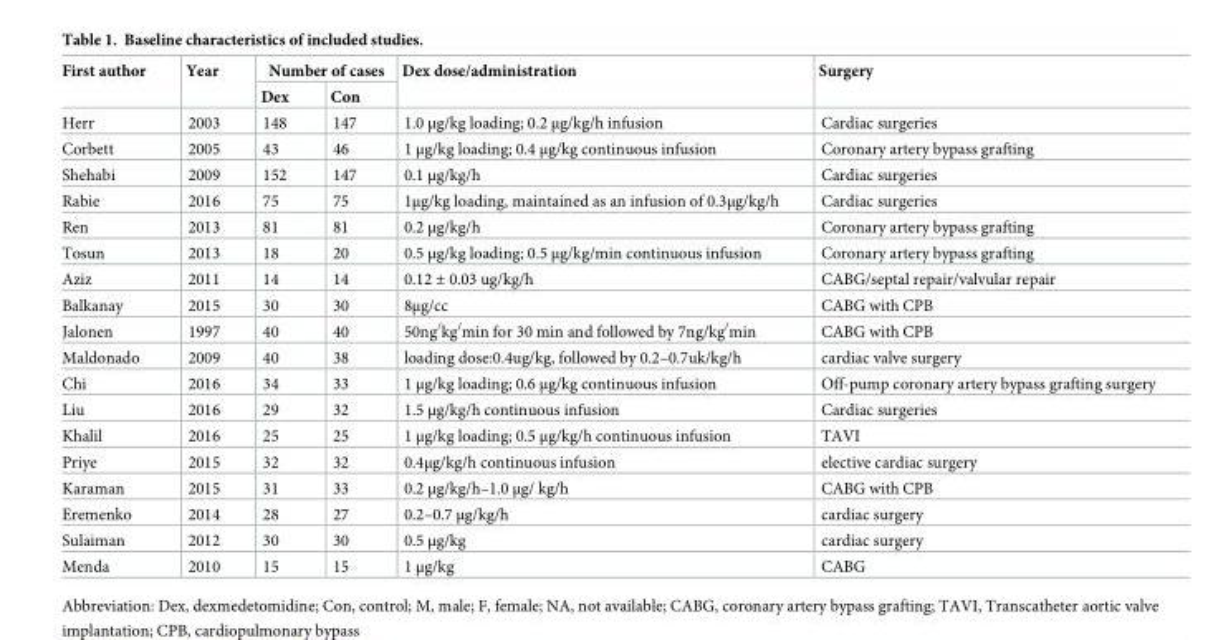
<table><thead><tr><td rowspan="2">First author</td><td rowspan="2">Year</td><td colspan="2">Number of cases</td><td rowspan="2">Dex dose/administration</td><td rowspan="2">Surgery</td></tr><tr><td>Dex</td><td>Con</td></tr></thead><tbody><tr><td>Herr</td><td>2003</td><td>148</td><td>147</td><td>1.0 μg/kg loading; 0.2 μg/kg/h infusion</td><td>Cardiac surgeries</td></tr><tr><td>Corbett</td><td>2005</td><td>43</td><td>46</td><td>1 μg/kg loading; 0.4 μg/kg continuous infusion</td><td>Coronary artery bypass grafting</td></tr><tr><td>Shehabi</td><td>2009</td><td>152</td><td>147</td><td>0.1 μg/kg/h</td><td>Cardiac surgeries</td></tr><tr><td>Rabie</td><td>2016</td><td>75</td><td>75</td><td>1μg/kg loading, maintained as an infusion of 0.3μg/kg/h</td><td>Cardiac surgeries</td></tr><tr><td>Ren</td><td>2013</td><td>81</td><td>81</td><td>0.2 μg/kg/h</td><td>Coronary artery bypass grafting</td></tr><tr><td>Tosun</td><td>2013</td><td>18</td><td>20</td><td>0.5 μg/kg loading; 0.5 μg/kg/min continuous infusion</td><td>Coronary artery bypass grafting</td></tr><tr><td>Aziz</td><td>2011</td><td>14</td><td>14</td><td>0.12 ± 0.03 ug/kg/h</td><td>CABG/septal repair/valvular repair</td></tr><tr><td>Balkanay</td><td>2015</td><td>30</td><td>30</td><td>8μg/cc</td><td>CABG with CPB</td></tr><tr><td>Jalonen</td><td>1997</td><td>40</td><td>40</td><td>50ng<sup>/</sup>kg<sup>/</sup>min for 30 min and followed by 7ng/kg<sup>/</sup>min</td><td>CABG with CPB</td></tr><tr><td>Maldonado</td><td>2009</td><td>40</td><td>38</td><td>loading dose:0.4ug/kg, followed by 0.2–0.7uk/kg/h</td><td>cardiac valve surgery</td></tr><tr><td>Chi</td><td>2016</td><td>34</td><td>33</td><td>1 μg/kg loading; 0.6 μg/kg continuous infusion</td><td>Off-pump coronary artery bypass grafting surgery</td></tr><tr><td>Liu</td><td>2016</td><td>29</td><td>32</td><td>1.5 μg/kg/h continuous infusion</td><td>Cardiac surgeries</td></tr><tr><td>Khalil</td><td>2016</td><td>25</td><td>25</td><td>1 μg/kg loading; 0.5 μg/kg/h continuous infusion</td><td>TAVI</td></tr><tr><td>Priye</td><td>2015</td><td>32</td><td>32</td><td>0.4μg/kg/h continuous infusion</td><td>elective cardiac surgery</td></tr><tr><td>Karaman</td><td>2015</td><td>31</td><td>33</td><td>0.2 μg/kg/h–1.0 μg/ kg/h</td><td>CABG with CPB</td></tr><tr><td>Eremenko</td><td>2014</td><td>28</td><td>27</td><td>0.2–0.7 μg/kg/h</td><td>cardiac surgery</td></tr><tr><td>Sulaiman</td><td>2012</td><td>30</td><td>30</td><td>0.5 μg/kg</td><td>cardiac surgery</td></tr><tr><td>Menda</td><td>2010</td><td>15</td><td>15</td><td>1 μg/kg</td><td>CABG</td></tr></tbody></table>